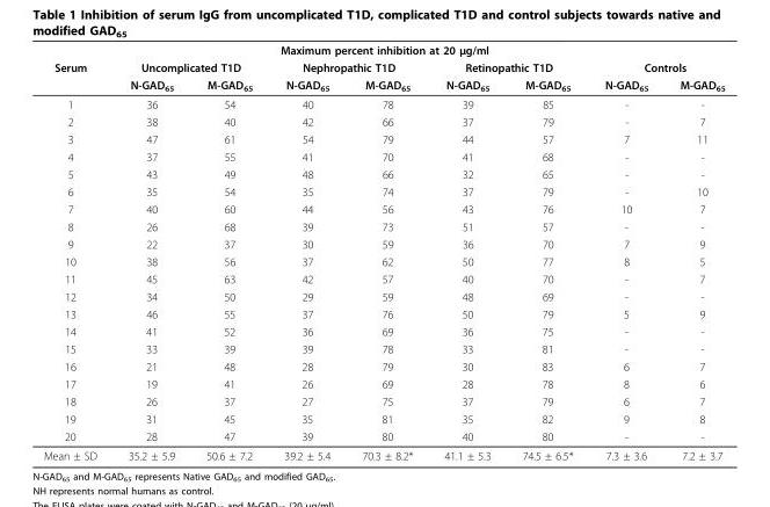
<table><thead><tr><td colspan="9">Maximum percent inhibition at 20 μg/ml</td></tr><tr><td rowspan="2">Serum</td><td colspan="2">Uncomplicated T1D</td><td colspan="2">Nephropathic T1D</td><td colspan="2">Retinopathic T1D</td><td colspan="2">Controls</td></tr><tr><td>N-GAD<sub>65</sub></td><td>M-GAD<sub>65</sub></td><td>N-GAD<sub>65</sub></td><td>M-GAD<sub>65</sub></td><td>N-GAD<sub>65</sub></td><td>M-GAD<sub>65</sub></td><td>N-GAD<sub>65</sub></td><td>M-GAD<sub>65</sub></td></tr></thead><tbody><tr><td>1</td><td>36</td><td>54</td><td>40</td><td>78</td><td>39</td><td>85</td><td>-</td><td>-</td></tr><tr><td>2</td><td>38</td><td>40</td><td>42</td><td>66</td><td>37</td><td>79</td><td>-</td><td>7</td></tr><tr><td>3</td><td>47</td><td>61</td><td>54</td><td>79</td><td>44</td><td>57</td><td>7</td><td>11</td></tr><tr><td>4</td><td>37</td><td>55</td><td>41</td><td>70</td><td>41</td><td>68</td><td>-</td><td>-</td></tr><tr><td>5</td><td>43</td><td>49</td><td>48</td><td>66</td><td>32</td><td>65</td><td>-</td><td>-</td></tr><tr><td>6</td><td>35</td><td>54</td><td>35</td><td>74</td><td>37</td><td>79</td><td>-</td><td>10</td></tr><tr><td>7</td><td>40</td><td>60</td><td>44</td><td>56</td><td>43</td><td>76</td><td>10</td><td>7</td></tr><tr><td>8</td><td>26</td><td>68</td><td>39</td><td>73</td><td>51</td><td>57</td><td>-</td><td>-</td></tr><tr><td>9</td><td>22</td><td>37</td><td>30</td><td>59</td><td>36</td><td>70</td><td>7</td><td>9</td></tr><tr><td>10</td><td>38</td><td>56</td><td>37</td><td>62</td><td>50</td><td>77</td><td>8</td><td>5</td></tr><tr><td>11</td><td>45</td><td>63</td><td>42</td><td>57</td><td>40</td><td>70</td><td>-</td><td>7</td></tr><tr><td>12</td><td>34</td><td>50</td><td>29</td><td>59</td><td>48</td><td>69</td><td>-</td><td>-</td></tr><tr><td>13</td><td>46</td><td>55</td><td>37</td><td>76</td><td>50</td><td>79</td><td>5</td><td>9</td></tr><tr><td>14</td><td>41</td><td>52</td><td>36</td><td>69</td><td>36</td><td>75</td><td>-</td><td>-</td></tr><tr><td>15</td><td>33</td><td>39</td><td>39</td><td>78</td><td>33</td><td>81</td><td>-</td><td>-</td></tr><tr><td>16</td><td>21</td><td>48</td><td>28</td><td>79</td><td>30</td><td>83</td><td>6</td><td>7</td></tr><tr><td>17</td><td>19</td><td>41</td><td>26</td><td>69</td><td>28</td><td>78</td><td>8</td><td>6</td></tr><tr><td>18</td><td>26</td><td>37</td><td>27</td><td>75</td><td>37</td><td>79</td><td>6</td><td>7</td></tr><tr><td>19</td><td>31</td><td>45</td><td>35</td><td>81</td><td>35</td><td>82</td><td>9</td><td>8</td></tr><tr><td>20</td><td>28</td><td>47</td><td>39</td><td>80</td><td>40</td><td>80</td><td>-</td><td>-</td></tr><tr><td>Mean ± SD</td><td>35.2 ± 5.9</td><td>50.6 ± 7.2</td><td>39.2 ± 5.4</td><td>70.3 ± 8.2*</td><td>41.1 ± 5.3</td><td>74.5 ± 6.5*</td><td>7.3 ± 3.6</td><td>7.2 ± 3.7</td></tr></tbody></table>